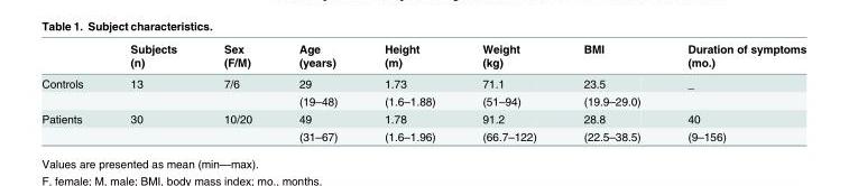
<table><thead><tr><td rowspan="2"></td><td rowspan="2">Subjects (n)</td><td rowspan="2">Sex (F/M)</td><td rowspan="2">Age (years)</td><td rowspan="2">Height (m)</td><td rowspan="2">Weight (kg)</td><td rowspan="2">BMI</td><td rowspan="2">Duration of symptoms (mo.)</td></tr><tr></tr></thead><tbody><tr><td rowspan="2">Controls</td><td>13</td><td>7/6</td><td>29</td><td>1.73</td><td>71.1</td><td>23.5</td><td>_</td></tr><tr><td></td><td></td><td>(19–48)</td><td>(1.6–1.88)</td><td>(51–94)</td><td>(19.9–29.0)</td><td></td></tr><tr><td rowspan="2">Patients</td><td>30</td><td>10/20</td><td>49</td><td>1.78</td><td>91.2</td><td>28.8</td><td>40</td></tr><tr><td></td><td></td><td>(31–67)</td><td>(1.6–1.96)</td><td>(66.7–122)</td><td>(22.5–38.5)</td><td>(9–156)</td></tr></tbody></table>